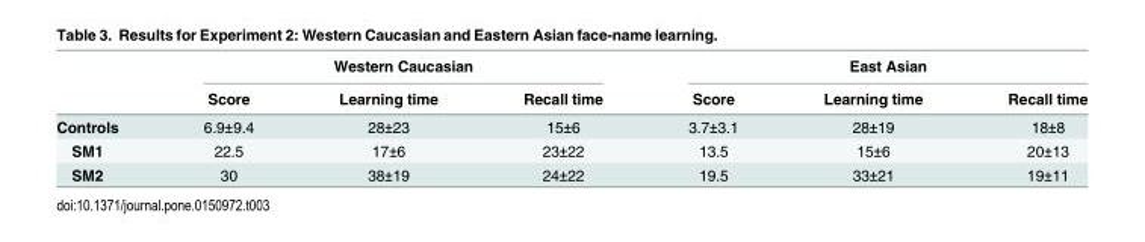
<table><thead><tr><td rowspan="2"></td><td colspan="3">Western Caucasian</td><td colspan="3">East Asian</td></tr><tr><td>Score</td><td>Learning time</td><td>Recall time</td><td>Score</td><td>Learning time</td><td>Recall time</td></tr></thead><tbody><tr><td>Controls</td><td>6.9±9.4</td><td>28±23</td><td>15±6</td><td>3.7±3.1</td><td>28±19</td><td>18±8</td></tr><tr><td>SM1</td><td>22.5</td><td>17±6</td><td>23±22</td><td>13.5</td><td>15±6</td><td>20±13</td></tr><tr><td>SM2</td><td>30</td><td>38±19</td><td>24±22</td><td>19.5</td><td>33±21</td><td>19±11</td></tr></tbody></table>